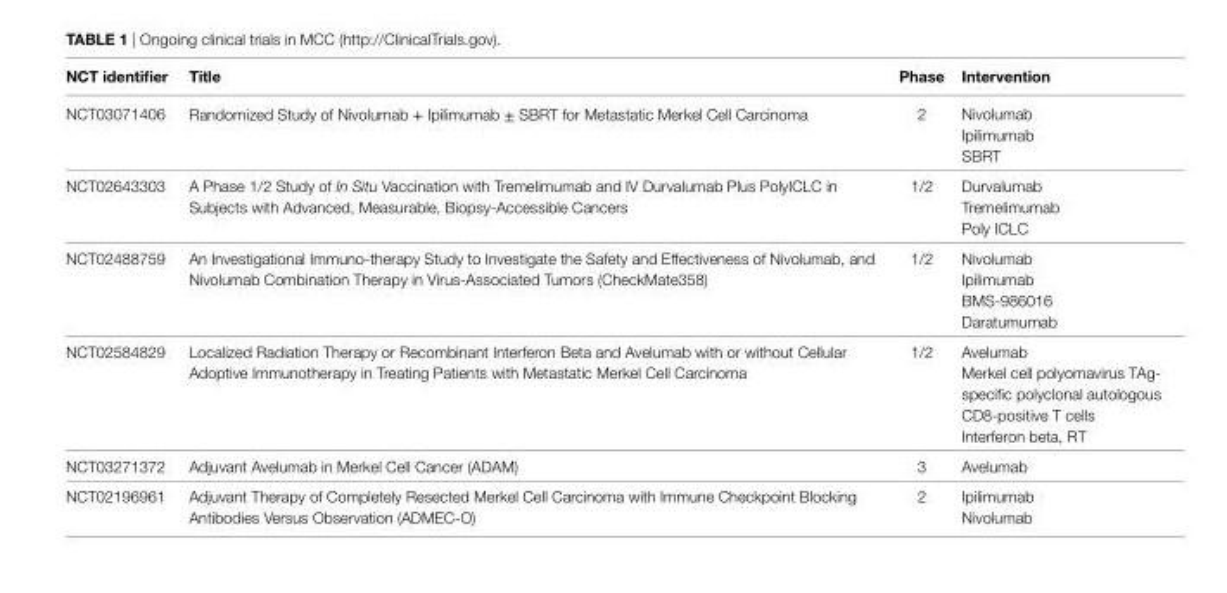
<table><thead><tr><td>NCT identifier</td><td>Title</td><td>Phase</td><td>intervention</td></tr></thead><tbody><tr><td>NCT03071406</td><td>Randomized Study of Nivolumab + Ipilimumab ± SBRT for Metastatic Merkel Cell Carcinoma</td><td>2</td><td>Nivolumab Ipilimumab SBRT</td></tr><tr><td>NCT02643303</td><td>A Phase 1/2 Study of In Situ Vaccination with Tremelimumab and IV Durvalumab Plus PolyICLC in Subjects with Advanced, Measurable, Biopsy-Accessible Cancers</td><td>1/2</td><td>Durvalumab Tremelimumab Poly ICLC</td></tr><tr><td>NCT02488759</td><td>An Investigational Immuno-therapy Study to Investigate the Safety and Effectiveness of Nivolumab, and Nivolumab Combination Therapy in Virus-Associated Tumors (CheckMate358)</td><td>1/2</td><td>Nivolumab Ipilimumab BMS-986016 Daratumumab</td></tr><tr><td>NCT02584829</td><td>Localized Radiation Therapy or Recombinant Interferon Beta and Avelumab with or without Cellular Adoptive Immunotherapy in Treating Patients with Metastatic Merkel Cell Carcinoma</td><td>1/2</td><td>Avelumab Merkel cell polyomavirus TAg- specific polyclonal autologous CD8-positive T cells Interferon beta, RT</td></tr><tr><td>NCT03271372</td><td>Adjuvant Avelumab in Merkel Cell Cancer (ADAM)</td><td>3</td><td>Avelumab</td></tr><tr><td>NCT02196961</td><td>Adjuvant Therapy of Completely Resected Merkel Cell Carcinoma with Immune Checkpoint Blocking Antibodies Versus Observation (ADMEC-O)</td><td>2</td><td>Ipilimumab Nivolumab</td></tr></tbody></table>